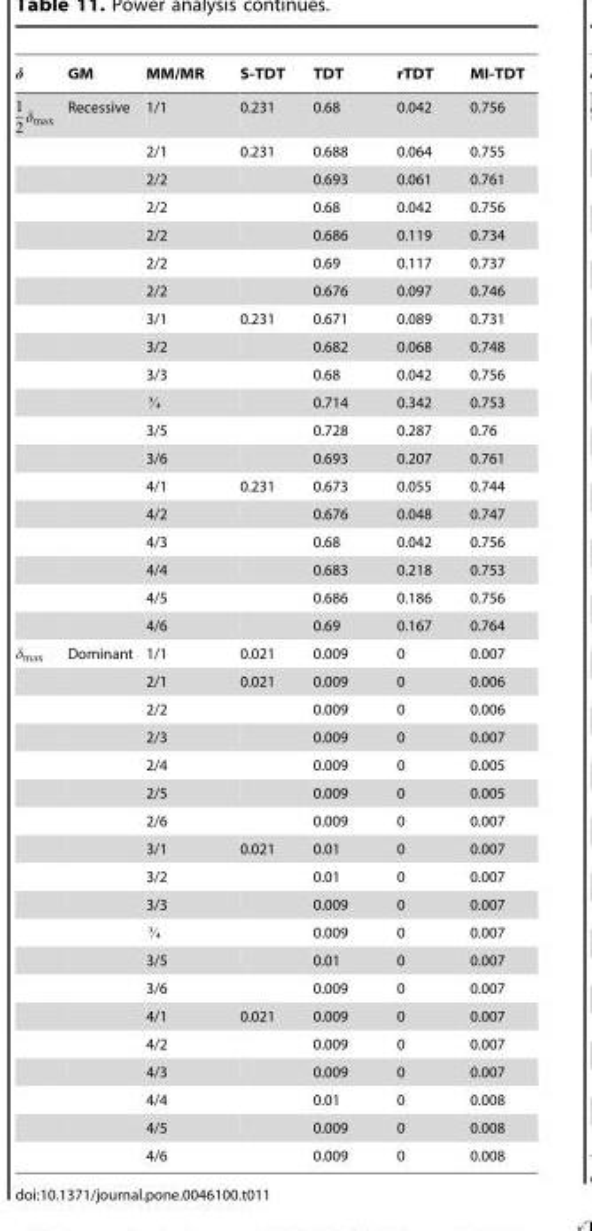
<table><thead><tr><td>GM</td><td>MM/MR</td><td>S-TDT</td><td>TDT</td><td>rTDT</td><td>MI-TDT</td></tr></thead><tbody><tr><td rowspan="19">Recessive</td><td>1/1</td><td>0.231</td><td>0.68</td><td>0.042</td><td>0.756</td></tr><tr><td>2/1</td><td>0.231</td><td>0.688</td><td>0.064</td><td>0.755</td></tr><tr><td>2/2</td><td></td><td>0.693</td><td>0.061</td><td>0.761</td></tr><tr><td>2/2</td><td></td><td>0.68</td><td>0.042</td><td>0.756</td></tr><tr><td>2/2</td><td></td><td>0.686</td><td>0.119</td><td>0.734</td></tr><tr><td>2/2</td><td></td><td>0.69</td><td>0.117</td><td>0.737</td></tr><tr><td>2/2</td><td></td><td>0.676</td><td>0.097</td><td>0.746</td></tr><tr><td>3/1</td><td>0.231</td><td>0.671</td><td>0.089</td><td>0.731</td></tr><tr><td>3/2</td><td></td><td>0.682</td><td>0.068</td><td>0.748</td></tr><tr><td>3/3</td><td></td><td>0.68</td><td>0.042</td><td>0.756</td></tr><tr><td>L</td><td></td><td>0.714</td><td>0.342</td><td>0.753</td></tr><tr><td>3/5</td><td></td><td>0.728</td><td>0.287</td><td>0.76</td></tr><tr><td>3/6</td><td></td><td>0.693</td><td>0.207</td><td>0.761</td></tr><tr><td>4/1</td><td>0.231</td><td>0.673</td><td>0.055</td><td>0.744</td></tr><tr><td>4/2</td><td></td><td>0.676</td><td>0.048</td><td>0.747</td></tr><tr><td>4/3</td><td></td><td>0.68</td><td>0.042</td><td>0.756</td></tr><tr><td>4/4</td><td></td><td>0.683</td><td>0.218</td><td>0.753</td></tr><tr><td>4/5</td><td></td><td>0.686</td><td>0.186</td><td>0.756</td></tr><tr><td>4/6</td><td></td><td>0.69</td><td>0.167</td><td>0.764</td></tr><tr><td rowspan="19">Dominant</td><td>1/1</td><td>0.021</td><td>0.009</td><td>0</td><td>0.007</td></tr><tr><td>2/1</td><td>0.021</td><td>0.009</td><td>0</td><td>0.006</td></tr><tr><td>2/2</td><td></td><td>0.009</td><td>0</td><td>0.006</td></tr><tr><td>2/3</td><td></td><td>0.009</td><td>0</td><td>0.007</td></tr><tr><td>2/4</td><td></td><td>0.009</td><td>0</td><td>0.005</td></tr><tr><td>2/5</td><td></td><td>0.009</td><td>0</td><td>0.005</td></tr><tr><td>2/6</td><td></td><td>0.009</td><td>0</td><td>0.007</td></tr><tr><td>3/1</td><td>0.021</td><td>0.01</td><td>0</td><td>0.007</td></tr><tr><td>3/2</td><td></td><td>0.01</td><td>0</td><td>0.007</td></tr><tr><td>3/3</td><td></td><td>0.009</td><td>0</td><td>0.007</td></tr><tr><td>L</td><td></td><td>0.009</td><td>0</td><td>0.007</td></tr><tr><td>3/5</td><td></td><td>0.01</td><td>0</td><td>0.007</td></tr><tr><td>3/6</td><td></td><td>0.009</td><td>0</td><td>0.007</td></tr><tr><td>4/1</td><td>0.021</td><td>0.009</td><td>0</td><td>0.007</td></tr><tr><td>4/2</td><td></td><td>0.009</td><td>0</td><td>0.007</td></tr><tr><td>4/3</td><td></td><td>0.009</td><td>0</td><td>0.007</td></tr><tr><td>4/4</td><td></td><td>0.01</td><td>0</td><td>0.008</td></tr><tr><td>4/5</td><td></td><td>0.009</td><td>0</td><td>0.008</td></tr><tr><td>4/6</td><td></td><td>0.009</td><td>0</td><td>0.008</td></tr></tbody></table>